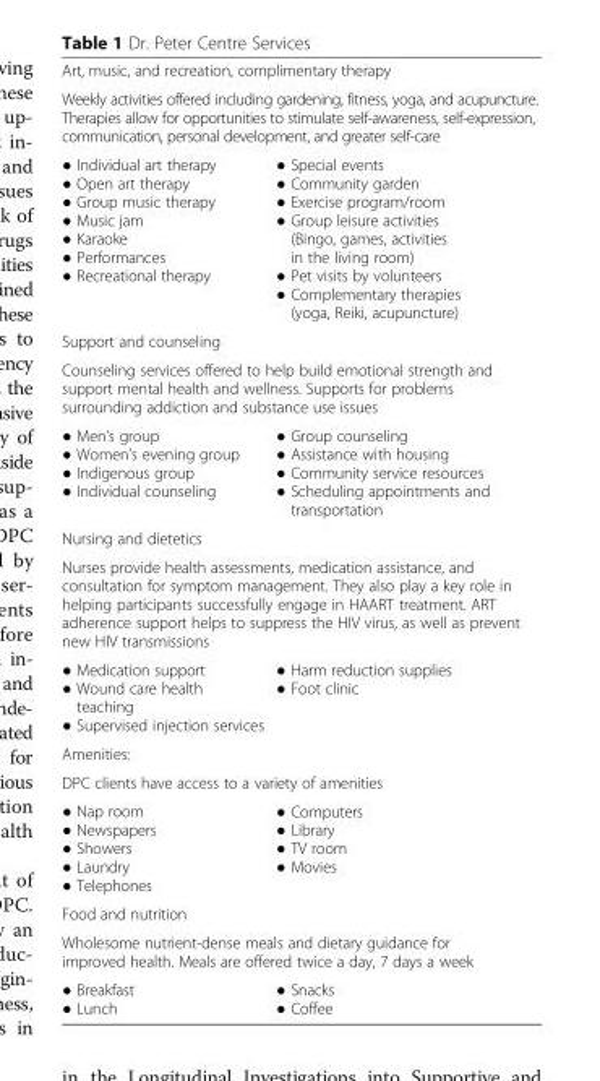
<table><tbody><tr><td colspan="2">Art, music, and recreation, complimentary therapy</td></tr><tr><td colspan="2">Weekly activities offered including gardening, fitness, yoga, and acupuncture. Therapies allow for opportunities to stimulate self-awareness, self-expression, communication, personal development, and greater self-care</td></tr><tr><td>● Individual art therapy ● Open art therapy ● Group music therapy ● Music jam ● Karaoke ● Performances ● Recreational therapy</td><td>● Special events ● Community garden ● Exercise program/room ● Group leisure activities (Bingo, games, activities in the living room) ● Pet visits by volunteers ● Complementary therapies (yoga, Reiki, acupuncture)</td></tr><tr><td colspan="2">Support and counseling</td></tr><tr><td colspan="2">Counseling services offered to help build emotional strength and support mental health and wellness. Supports for problems surrounding addiction and substance use issues</td></tr><tr><td>● Men’s group ● Women’s evening group ● Indigenous group ● Individual counseling</td><td>● Group counseling ● Assistance with housing ● Community service resources ● Scheduling appointments and transportation</td></tr><tr><td colspan="2">Nursing and dietetics</td></tr><tr><td colspan="2">Nurses provide health assessments, medication assistance, and consultation for symptom management. They also play a key role in helping participants successfully engage in HAART treatment. ART adherence support helps to suppress the HIV virus, as well as prevent new HIV transmissions</td></tr><tr><td>● Medication support ● Wound care health teaching ● Supervised injection services</td><td>● Harm reduction supplies ● Foot clinic</td></tr><tr><td colspan="2">Amenities:</td></tr><tr><td colspan="2">DPC clients have access to a variety of amenities</td></tr><tr><td>● Nap room ● Newspapers ● Showers ● Laundry ● Telephones</td><td>● Computers ● Library ● TV room ● Movies</td></tr><tr><td colspan="2">Food and nutrition</td></tr><tr><td colspan="2">Wholesome nutrient-dense meals and dietary guidance for improved health. Meals are offered twice a day, 7 days a week</td></tr><tr><td>● Breakfast ● Lunch</td><td>● Snacks ● Coffee</td></tr></tbody></table>